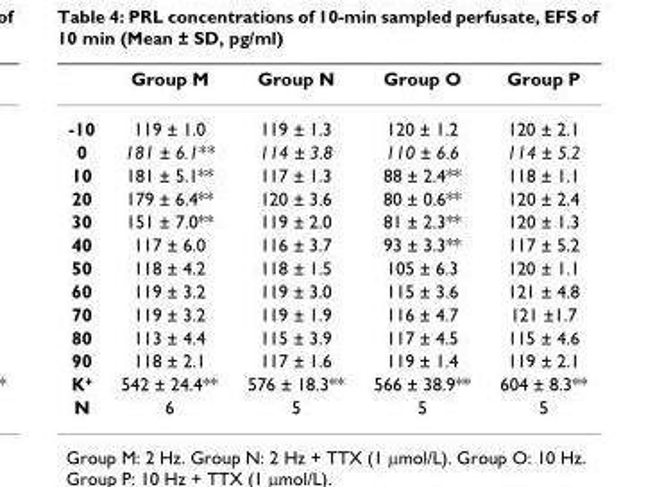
<table><thead><tr><td></td><td>Group M</td><td>Group N</td><td>Group O</td><td>Group P</td></tr></thead><tbody><tr><td>-10</td><td>119 ± 1.0</td><td>119 ± 1.3</td><td>120 ± 1.2</td><td>120 ± 2.1</td></tr><tr><td>0</td><td>181 ± 6.1**</td><td>114 ± 3.8</td><td>110 ± 6.6</td><td>114 ± 5.2</td></tr><tr><td>10</td><td>181 ± 5.1**</td><td>117 ± 1.3</td><td>88 ± 2.4**</td><td>118 ± 1.1</td></tr><tr><td>20</td><td>179 ± 6.4**</td><td>120 ± 3.6</td><td>80 ± 0.6**</td><td>120 ± 2.4</td></tr><tr><td>30</td><td>151 ± 7.0**</td><td>119 ± 2.0</td><td>81 ± 2.3**</td><td>120 ± 1.3</td></tr><tr><td>40</td><td>117 ± 6.0</td><td>116 ± 3.7</td><td>93 ± 3.3**</td><td>117 ± 5.2</td></tr><tr><td>50</td><td>118 ± 4.2</td><td>118 ± 1.5</td><td>105 ± 6.3</td><td>120 ± 1.1</td></tr><tr><td>60</td><td>119 ± 3.2</td><td>119 ± 3.0</td><td>115 ± 3.6</td><td>121 ± 4.8</td></tr><tr><td>70</td><td>119 ± 3.2</td><td>119 ± 1.9</td><td>116 ± 4.7</td><td>121 ±1.7</td></tr><tr><td>80</td><td>113 ± 4.4</td><td>115 ± 3.9</td><td>117 ± 4.5</td><td>115 ± 4.6</td></tr><tr><td>90</td><td>118 ± 2.1</td><td>117 ± 1.6</td><td>119 ± 1.4</td><td>119 ± 2.1</td></tr><tr><td>K<sup>+</sup></td><td>542 ± 24.4**</td><td>576 ± 18.3**</td><td>566 ± 38.9**</td><td>604 ± 8.3**</td></tr><tr><td>N</td><td>6</td><td>5</td><td>5</td><td>5</td></tr></tbody></table>